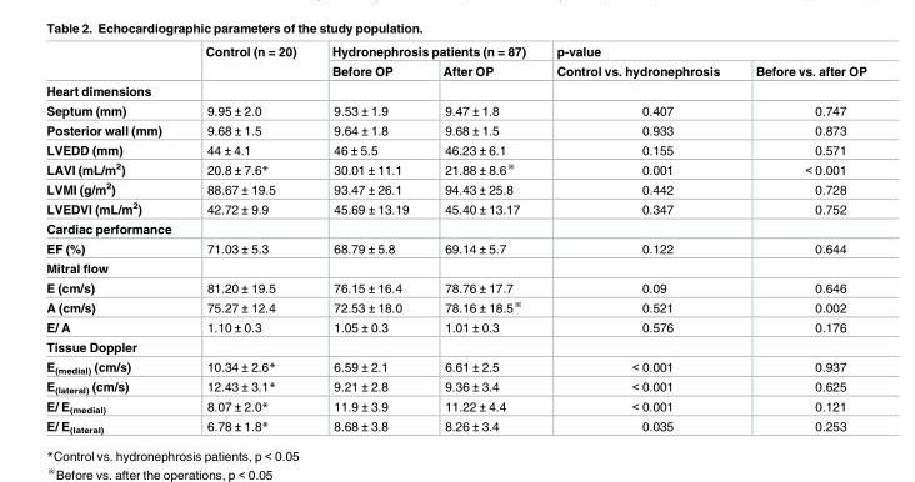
<table><thead><tr><td rowspan="2"></td><td rowspan="2">Control (n = 20)</td><td colspan="2">Hydronephrosis patients (n = 87)</td><td colspan="2">p-value</td></tr><tr><td>Before OP</td><td>After OP</td><td>Control vs. hydronephrosis</td><td>Before vs. after OP</td></tr></thead><tbody><tr><td colspan="6">Heart dimensions</td></tr><tr><td>Septum (mm)</td><td>9.95 ± 2.0</td><td>9.53 ± 1.9</td><td>9.47 ± 1.8</td><td>0.407</td><td>0.747</td></tr><tr><td>Posterior wall (mm)</td><td>9.68 ± 1.5</td><td>9.64 ± 1.8</td><td>9.68 ± 1.5</td><td>0.933</td><td>0.873</td></tr><tr><td>LVEDD (mm)</td><td>44 ± 4.1</td><td>46 ± 5.5</td><td>46.23 ± 6.1</td><td>0.155</td><td>0.571</td></tr><tr><td>LAVI (mL/m<sup>2</sup>)</td><td>20.8 ± 7.6*</td><td>30.01 ± 11.1</td><td>21.88 ± 8.6<sup>※</sup></td><td>0.001</td><td>&lt; 0.001</td></tr><tr><td>LVMI (g/m<sup>2</sup>)</td><td>88.67 ± 19.5</td><td>93.47 ± 26.1</td><td>94.43 ± 25.8</td><td>0.442</td><td>0.728</td></tr><tr><td>LVEDVI (mL/m<sup>2</sup>)</td><td>42.72 ± 9.9</td><td>45.69 ± 13.19</td><td>45.40 ± 13.17</td><td>0.347</td><td>0.752</td></tr><tr><td colspan="6">Cardiac performance</td></tr><tr><td>EF (%)</td><td>71.03 ± 5.3</td><td>68.79 ± 5.8</td><td>69.14 ± 5.7</td><td>0.122</td><td>0.644</td></tr><tr><td colspan="6">Mitral flow</td></tr><tr><td>E (cm/s)</td><td>81.20 ± 19.5</td><td>76.15 ± 16.4</td><td>78.76 ± 17.7</td><td>0.09</td><td>0.646</td></tr><tr><td>A (cm/s)</td><td>75.27 ± 12.4</td><td>72.53 ± 18.0</td><td>78.16 ± 18.5<sup>※</sup></td><td>0.521</td><td>0.002</td></tr><tr><td>E/ A</td><td>1.10 ± 0.3</td><td>1.05 ± 0.3</td><td>1.01 ± 0.3</td><td>0.576</td><td>0.176</td></tr><tr><td colspan="6">Tissue Doppler</td></tr><tr><td>E<sub>(medial)</sub> (cm/s)</td><td>10.34 ± 2.6*</td><td>6.59 ± 2.1</td><td>6.61 ± 2.5</td><td>&lt; 0.001</td><td>0.937</td></tr><tr><td>E<sub>(lateral)</sub> (cm/s)</td><td>12.43 ± 3.1*</td><td>9.21 ± 2.8</td><td>9.36 ± 3.4</td><td>&lt; 0.001</td><td>0.625</td></tr><tr><td>E/ E<sub>(medial)</sub></td><td>8.07 ± 2.0*</td><td>11.9 ± 3.9</td><td>11.22 ± 4.4</td><td>&lt; 0.001</td><td>0.121</td></tr><tr><td>E/ E<sub>(lateral)</sub></td><td>6.78 ± 1.8*</td><td>8.68 ± 3.8</td><td>8.26 ± 3.4</td><td>0.035</td><td>0.253</td></tr></tbody></table>